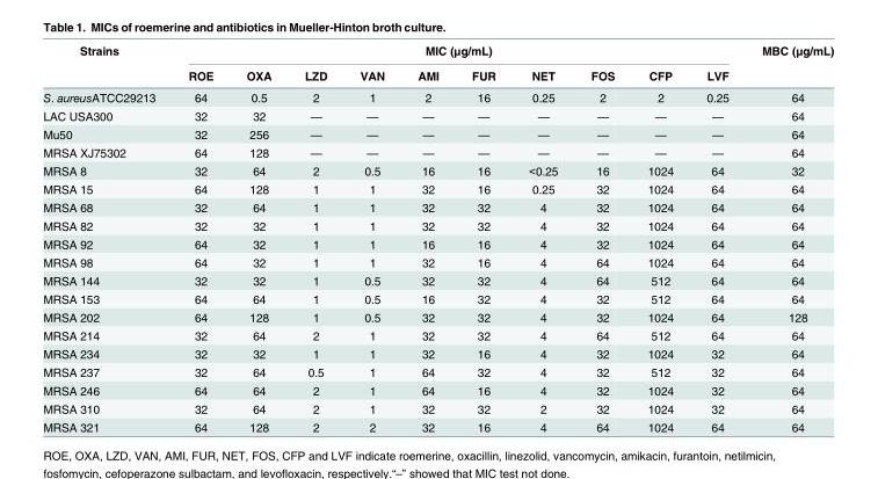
<table><thead><tr><td rowspan="2">Strains</td><td colspan="10">MIC (μg/mL)</td><td rowspan="2">MBC (μg/mL)</td></tr><tr><td>ROE</td><td>OXA</td><td>LZD</td><td>VAN</td><td>AMI</td><td>FUR</td><td>NET</td><td>FOS</td><td>CFP</td><td>LVF</td></tr></thead><tbody><tr><td>S. aureusATCC29213</td><td>64</td><td>0.5</td><td>2</td><td>1</td><td>2</td><td>16</td><td>0.25</td><td>2</td><td>2</td><td>0.25</td><td>64</td></tr><tr><td>LAC USA300</td><td>32</td><td>32</td><td>—</td><td>—</td><td>—</td><td>—</td><td>—</td><td>—</td><td>—</td><td>—</td><td>64</td></tr><tr><td>Mu50</td><td>32</td><td>256</td><td>—</td><td>—</td><td>—</td><td>—</td><td>—</td><td>—</td><td>—</td><td>—</td><td>64</td></tr><tr><td>MRSA XJ75302</td><td>64</td><td>128</td><td>—</td><td>—</td><td>—</td><td>—</td><td>—</td><td>—</td><td>—</td><td>—</td><td>64</td></tr><tr><td>MRSA 8</td><td>32</td><td>64</td><td>2</td><td>0.5</td><td>16</td><td>16</td><td>&lt;0.25</td><td>16</td><td>1024</td><td>64</td><td>32</td></tr><tr><td>MRSA 15</td><td>64</td><td>128</td><td>1</td><td>1</td><td>32</td><td>16</td><td>0.25</td><td>32</td><td>1024</td><td>64</td><td>64</td></tr><tr><td>MRSA 68</td><td>32</td><td>64</td><td>1</td><td>1</td><td>32</td><td>32</td><td>4</td><td>32</td><td>1024</td><td>64</td><td>64</td></tr><tr><td>MRSA 82</td><td>32</td><td>32</td><td>1</td><td>1</td><td>32</td><td>32</td><td>4</td><td>32</td><td>1024</td><td>64</td><td>64</td></tr><tr><td>MRSA 92</td><td>64</td><td>32</td><td>1</td><td>1</td><td>16</td><td>16</td><td>4</td><td>32</td><td>1024</td><td>64</td><td>64</td></tr><tr><td>MRSA 98</td><td>64</td><td>32</td><td>1</td><td>1</td><td>32</td><td>16</td><td>4</td><td>64</td><td>1024</td><td>64</td><td>64</td></tr><tr><td>MRSA 144</td><td>32</td><td>32</td><td>1</td><td>0.5</td><td>32</td><td>32</td><td>4</td><td>64</td><td>512</td><td>64</td><td>64</td></tr><tr><td>MRSA 153</td><td>64</td><td>64</td><td>1</td><td>0.5</td><td>16</td><td>32</td><td>4</td><td>32</td><td>512</td><td>64</td><td>64</td></tr><tr><td>MRSA 202</td><td>64</td><td>128</td><td>1</td><td>0.5</td><td>32</td><td>32</td><td>4</td><td>32</td><td>1024</td><td>64</td><td>128</td></tr><tr><td>MRSA 214</td><td>32</td><td>64</td><td>2</td><td>1</td><td>32</td><td>32</td><td>4</td><td>64</td><td>512</td><td>64</td><td>64</td></tr><tr><td>MRSA 234</td><td>32</td><td>32</td><td>1</td><td>1</td><td>32</td><td>16</td><td>4</td><td>32</td><td>1024</td><td>32</td><td>64</td></tr><tr><td>MRSA 237</td><td>32</td><td>64</td><td>0.5</td><td>1</td><td>64</td><td>32</td><td>4</td><td>32</td><td>512</td><td>32</td><td>64</td></tr><tr><td>MRSA 246</td><td>64</td><td>64</td><td>2</td><td>1</td><td>64</td><td>16</td><td>4</td><td>32</td><td>1024</td><td>32</td><td>64</td></tr><tr><td>MRSA 310</td><td>32</td><td>64</td><td>2</td><td>1</td><td>32</td><td>32</td><td>2</td><td>32</td><td>1024</td><td>32</td><td>64</td></tr><tr><td>MRSA 321</td><td>64</td><td>128</td><td>2</td><td>2</td><td>32</td><td>16</td><td>4</td><td>64</td><td>1024</td><td>64</td><td>64</td></tr></tbody></table>